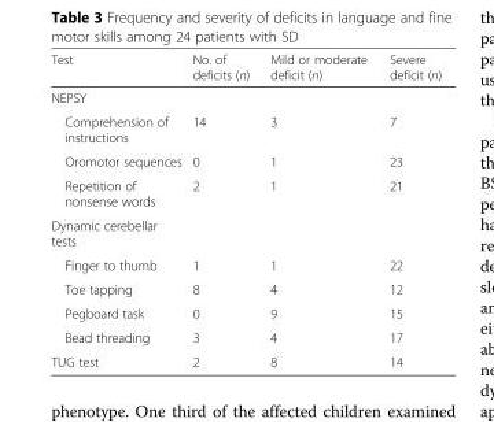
<table><thead><tr><td>Test</td><td>No. of deficits (n)</td><td>Mild or moderate deficit (n)</td><td>Severe deficit (n)</td></tr></thead><tbody><tr><td colspan="4">NEPSY</td></tr><tr><td>Comprehension of instructions</td><td>14</td><td>3</td><td>7</td></tr><tr><td>Oromotor sequences</td><td>0</td><td>1</td><td>23</td></tr><tr><td>Repetition of nonsense words</td><td>2</td><td>1</td><td>21</td></tr><tr><td colspan="4">Dynamic cerebellar tests</td></tr><tr><td>Finger to thumb</td><td>1</td><td>1</td><td>22</td></tr><tr><td>Toe tapping</td><td>8</td><td>4</td><td>12</td></tr><tr><td>Pegboard task</td><td>0</td><td>9</td><td>15</td></tr><tr><td>Bead threading</td><td>3</td><td>4</td><td>17</td></tr><tr><td>TUG test</td><td>2</td><td>8</td><td>14</td></tr></tbody></table>